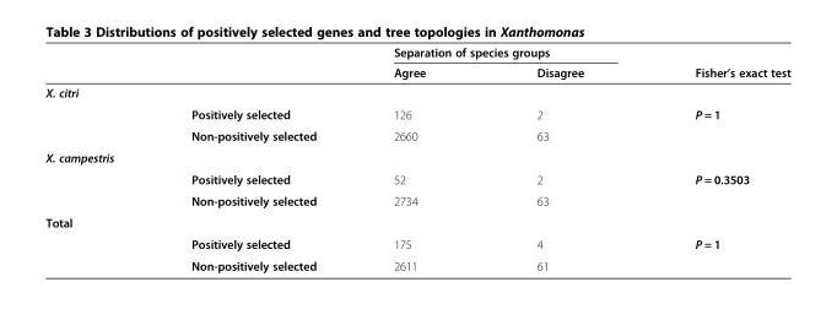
<table><thead><tr><td rowspan="2"></td><td rowspan="2"></td><td colspan="2">Separation of species groups</td><td rowspan="2">Fisher’s exact test</td></tr><tr><td>Agree</td><td>Disagree</td></tr></thead><tbody><tr><td colspan="5">X. citri</td></tr><tr><td></td><td>Positively selected</td><td>126</td><td>2</td><td>P = 1</td></tr><tr><td></td><td>Non-positively selected</td><td>2660</td><td>63</td><td></td></tr><tr><td colspan="5">X. campestris</td></tr><tr><td></td><td>Positively selected</td><td>52</td><td>2</td><td>P = 0.3503</td></tr><tr><td></td><td>Non-positively selected</td><td>2734</td><td>63</td><td></td></tr><tr><td colspan="5">Total</td></tr><tr><td></td><td>Positively selected</td><td>175</td><td>4</td><td>P = 1</td></tr><tr><td></td><td>Non-positively selected</td><td>2611</td><td>61</td><td></td></tr></tbody></table>